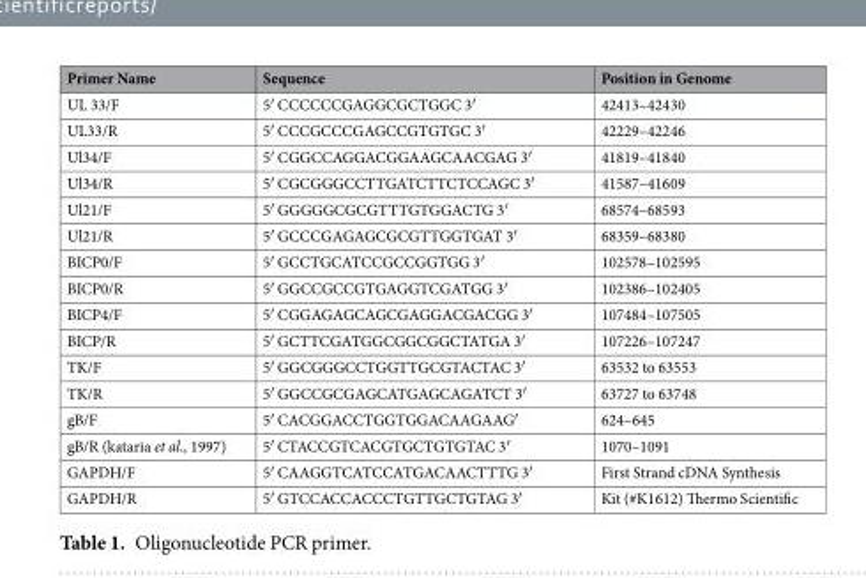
<table><thead><tr><td>Primer Name</td><td>Sequence</td><td>Position in Genome</td></tr></thead><tbody><tr><td>UL 33/F</td><td>5′ CCCCCCGAGGCGCTGGC 3′</td><td>42413–42430</td></tr><tr><td>UL33/R</td><td>5′ CCCGCCCGAGCCGTGTGC 3′</td><td>42229–42246</td></tr><tr><td>Ul34/F</td><td>5′ CGGCCAGGACGGAAGCAACGAG 3′</td><td>41819–41840</td></tr><tr><td>Ul34/R</td><td>5′ CGCGGGCCTTGATCTTCTCCAGC 3′</td><td>41587–41609</td></tr><tr><td>Ul21/F</td><td>5′ GGGGGCGCGTTTGTGGACTG 3′</td><td>68574–68593</td></tr><tr><td>Ul21/R</td><td>5′ GCCCGAGAGCGCGTTGGTGAT 3′</td><td>68359–68380</td></tr><tr><td>BICP0/F</td><td>5′ GCCTGCATCCGCCGGTGG 3′</td><td>102578–102595</td></tr><tr><td>BICP0/R</td><td>5′ GGCCGCCGTGAGGTCGATGG 3′</td><td>102386–102405</td></tr><tr><td>BICP4/F</td><td>5′ CGGAGAGCAGCGAGGACGACGG 3′</td><td>107484–107505</td></tr><tr><td>BICP/R</td><td>5′ GCTTCGATGGCGGCGGCTATGA 3′</td><td>107226–107247</td></tr><tr><td>TK/F</td><td>5′ GGCGGGCCTGGTTGCGTACTAC 3′</td><td>63532 to 63553</td></tr><tr><td>TK/R</td><td>5′ GGCCGCGAGCATGAGCAGATCT 3′</td><td>63727 to 63748</td></tr><tr><td>gB/F</td><td>5′ CACGGACCTGGTGGACAAGAAG′</td><td>624–645</td></tr><tr><td>gB/R (kataria et al., 1997)</td><td>5′ CTACCGTCACGTGCTGTGTAC 3′</td><td>1070–1091</td></tr><tr><td>GAPDH/F</td><td>5′ CAAGGTCATCCATGACAACTTTG 3′</td><td>First Strand cDNA Synthesis</td></tr><tr><td>GAPDH/R</td><td>5′ GTCCACCACCCTGTTGCTGTAG 3′</td><td>Kit (#K1612) Thermo Scientific</td></tr></tbody></table>